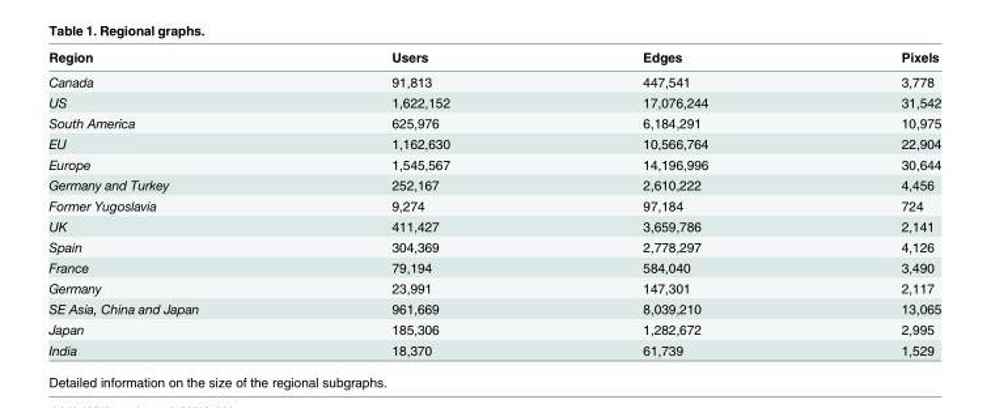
<table><thead><tr><td>Region</td><td>Users</td><td>Edges</td><td>Pixels</td></tr></thead><tbody><tr><td>Canada</td><td>91,813</td><td>447,541</td><td>3,778</td></tr><tr><td>US</td><td>1,622,152</td><td>17,076,244</td><td>31,542</td></tr><tr><td>South America</td><td>625,976</td><td>6,184,291</td><td>10,975</td></tr><tr><td>EU</td><td>1,162,630</td><td>10,566,764</td><td>22,904</td></tr><tr><td>Europe</td><td>1,545,567</td><td>14,196,996</td><td>30,644</td></tr><tr><td>Germany and Turkey</td><td>252,167</td><td>2,610,222</td><td>4,456</td></tr><tr><td>Former Yugoslavia</td><td>9,274</td><td>97,184</td><td>724</td></tr><tr><td>UK</td><td>411,427</td><td>3,659,786</td><td>2,141</td></tr><tr><td>Spain</td><td>304,369</td><td>2,778,297</td><td>4,126</td></tr><tr><td>France</td><td>79,194</td><td>584,040</td><td>3,490</td></tr><tr><td>Germany</td><td>23,991</td><td>147,301</td><td>2,117</td></tr><tr><td>SE Asia, China and Japan</td><td>961,669</td><td>8,039,210</td><td>13,065</td></tr><tr><td>Japan</td><td>185,306</td><td>1,282,672</td><td>2,995</td></tr><tr><td>India</td><td>18,370</td><td>61,739</td><td>1,529</td></tr></tbody></table>